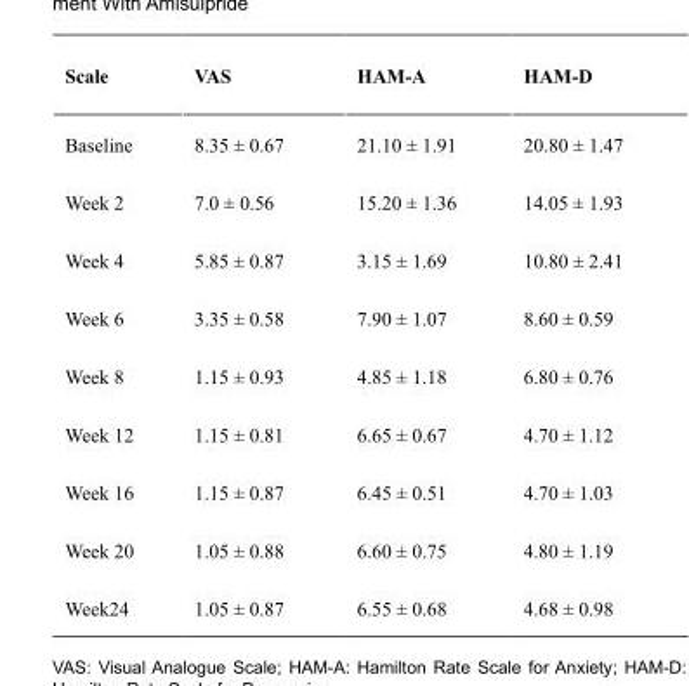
<table><thead><tr><td>Scale</td><td>VAS</td><td>HAM-A</td><td>HAM-D</td></tr></thead><tbody><tr><td>Baseline</td><td>8.35 ± 0.67</td><td>21.10 ± 1.91</td><td>20.80 ± 1.47</td></tr><tr><td>Week 2</td><td>7.0 ± 0.56</td><td>15.20 ± 1.36</td><td>14.05 ± 1.93</td></tr><tr><td>Week 4</td><td>5.85 ± 0.87</td><td>3.15 ± 1.69</td><td>10.80 ± 2.41</td></tr><tr><td>Week 6</td><td>3.35 ± 0.58</td><td>7.90 ± 1.07</td><td>8.60 ± 0.59</td></tr><tr><td>Week 8</td><td>1.15 ± 0.93</td><td>4.85 ± 1.18</td><td>6.80 ± 0.76</td></tr><tr><td>Week 12</td><td>1.15 ± 0.81</td><td>6.65 ± 0.67</td><td>4.70 ± 1.12</td></tr><tr><td>Week 16</td><td>1.15 ± 0.87</td><td>6.45 ± 0.51</td><td>4.70 ± 1.03</td></tr><tr><td>Week 20</td><td>1.05 ± 0.88</td><td>6.60 ± 0.75</td><td>4.80 ± 1.19</td></tr><tr><td>Week24</td><td>1.05 ± 0.87</td><td>6.55 ± 0.68</td><td>4.68 ± 0.98</td></tr></tbody></table>